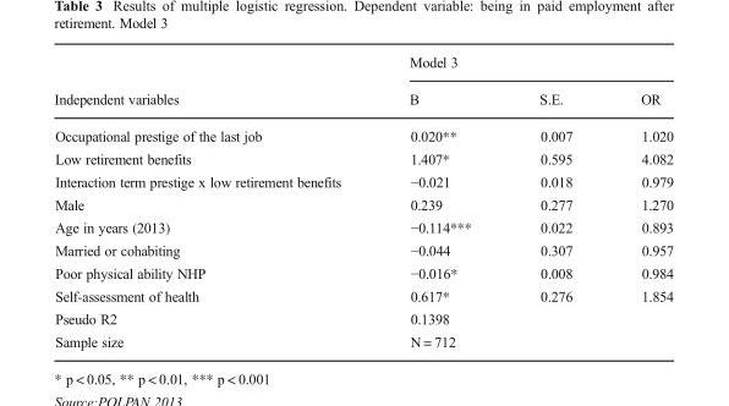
<table><thead><tr><td rowspan="2">Independent variables</td><td colspan="3">Model 3</td></tr><tr><td>B</td><td>S.E.</td><td>OR</td></tr></thead><tbody><tr><td>Occupational prestige of the last job</td><td>0.020**</td><td>0.007</td><td>1.020</td></tr><tr><td>Low retirement benefits</td><td>1.407*</td><td>0.595</td><td>4.082</td></tr><tr><td>Interaction term prestige x low retirement benefits</td><td>−0.021</td><td>0.018</td><td>0.979</td></tr><tr><td>Male</td><td>0.239</td><td>0.277</td><td>1.270</td></tr><tr><td>Age in years (2013)</td><td>−0.114***</td><td>0.022</td><td>0.893</td></tr><tr><td>Married or cohabiting</td><td>−0.044</td><td>0.307</td><td>0.957</td></tr><tr><td>Poor physical ability NHP</td><td>−0.016*</td><td>0.008</td><td>0.984</td></tr><tr><td>Self-assessment of health</td><td>0.617*</td><td>0.276</td><td>1.854</td></tr><tr><td>Pseudo R2</td><td colspan="3">0.1398</td></tr><tr><td>Sample size</td><td colspan="3">N = 712</td></tr></tbody></table>